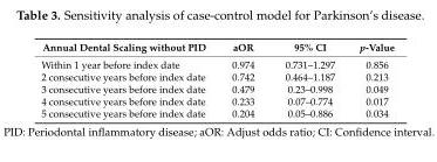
<table><thead><tr><td>Annual Dental Scaling without PID</td><td>aOR</td><td>95% CI</td><td>p-Value</td></tr></thead><tbody><tr><td>Within 1 year before index date</td><td>0.974</td><td>0.731–1.297</td><td>0.856</td></tr><tr><td>2 consecutive years before index date</td><td>0.742</td><td>0.464–1.187</td><td>0.213</td></tr><tr><td>3 consecutive years before index date</td><td>0.479</td><td>0.23–0.998</td><td>0.049</td></tr><tr><td>4 consecutive years before index date</td><td>0.233</td><td>0.07–0.774</td><td>0.017</td></tr><tr><td>5 consecutive years before index date</td><td>0.204</td><td>0.05–0.886</td><td>0.034</td></tr></tbody></table>